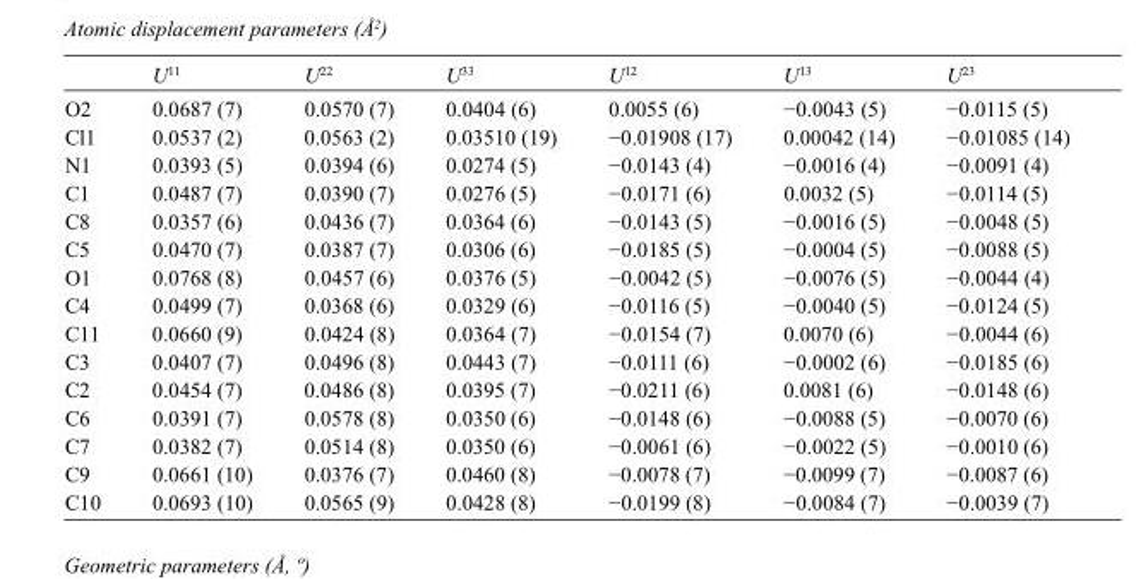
<table><thead><tr><td></td><td>U<sup>11</sup></td><td>U<sup>22</sup></td><td>U<sup>33</sup></td><td>U<sup>12</sup></td><td>U<sup>13</sup></td><td>U<sup>23</sup></td></tr></thead><tbody><tr><td>O2</td><td>0.0687 (7)</td><td>0.0570 (7)</td><td>0.0404 (6)</td><td>0.0055 (6)</td><td>−0.0043 (5)</td><td>−0.0115 (5)</td></tr><tr><td>Cl1</td><td>0.0537 (2)</td><td>0.0563 (2)</td><td>0.03510 (19)</td><td>−0.01908 (17)</td><td>0.00042 (14)</td><td>−0.01085 (14)</td></tr><tr><td>N1</td><td>0.0393 (5)</td><td>0.0394 (6)</td><td>0.0274 (5)</td><td>−0.0143 (4)</td><td>−0.0016 (4)</td><td>−0.0091 (4)</td></tr><tr><td>C1</td><td>0.0487 (7)</td><td>0.0390 (7)</td><td>0.0276 (5)</td><td>−0.0171 (6)</td><td>0.0032 (5)</td><td>−0.0114 (5)</td></tr><tr><td>C8</td><td>0.0357 (6)</td><td>0.0436 (7)</td><td>0.0364 (6)</td><td>−0.0143 (5)</td><td>−0.0016 (5)</td><td>−0.0048 (5)</td></tr><tr><td>C5</td><td>0.0470 (7)</td><td>0.0387 (7)</td><td>0.0306 (6)</td><td>−0.0185 (5)</td><td>−0.0004 (5)</td><td>−0.0088 (5)</td></tr><tr><td>O1</td><td>0.0768 (8)</td><td>0.0457 (6)</td><td>0.0376 (5)</td><td>−0.0042 (5)</td><td>−0.0076 (5)</td><td>−0.0044 (4)</td></tr><tr><td>C4</td><td>0.0499 (7)</td><td>0.0368 (6)</td><td>0.0329 (6)</td><td>−0.0116 (5)</td><td>−0.0040 (5)</td><td>−0.0124 (5)</td></tr><tr><td>C11</td><td>0.0660 (9)</td><td>0.0424 (8)</td><td>0.0364 (7)</td><td>−0.0154 (7)</td><td>0.0070 (6)</td><td>−0.0044 (6)</td></tr><tr><td>C3</td><td>0.0407 (7)</td><td>0.0496 (8)</td><td>0.0443 (7)</td><td>−0.0111 (6)</td><td>−0.0002 (6)</td><td>−0.0185 (6)</td></tr><tr><td>C2</td><td>0.0454 (7)</td><td>0.0486 (8)</td><td>0.0395 (7)</td><td>−0.0211 (6)</td><td>0.0081 (6)</td><td>−0.0148 (6)</td></tr><tr><td>C6</td><td>0.0391 (7)</td><td>0.0578 (8)</td><td>0.0350 (6)</td><td>−0.0148 (6)</td><td>−0.0088 (5)</td><td>−0.0070 (6)</td></tr><tr><td>C7</td><td>0.0382 (7)</td><td>0.0514 (8)</td><td>0.0350 (6)</td><td>−0.0061 (6)</td><td>−0.0022 (5)</td><td>−0.0010 (6)</td></tr><tr><td>C9</td><td>0.0661 (10)</td><td>0.0376 (7)</td><td>0.0460 (8)</td><td>−0.0078 (7)</td><td>−0.0099 (7)</td><td>−0.0087 (6)</td></tr><tr><td>C10</td><td>0.0693 (10)</td><td>0.0565 (9)</td><td>0.0428 (8)</td><td>−0.0199 (8)</td><td>−0.0084 (7)</td><td>−0.0039 (7)</td></tr></tbody></table>